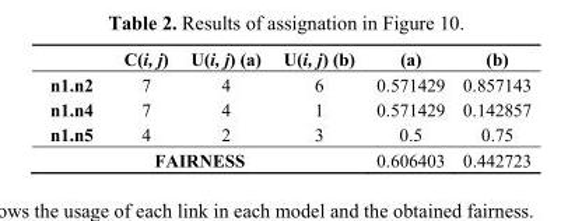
<table><thead><tr><td></td><td>C(i, j)</td><td>U(i, j) (a)</td><td>U(i, j) (b)</td><td>(a)</td><td>(b)</td></tr></thead><tbody><tr><td>n1.n2</td><td>7</td><td>4</td><td>6</td><td>0.571429</td><td>0.857143</td></tr><tr><td>n1.n4</td><td>7</td><td>4</td><td>1</td><td>0.571429</td><td>0.142857</td></tr><tr><td>n1.n5</td><td>4</td><td>2</td><td>3</td><td>0.5</td><td>0.75</td></tr><tr><td colspan="4">FAIRNESS</td><td>0.606403</td><td>0.442723</td></tr></tbody></table>